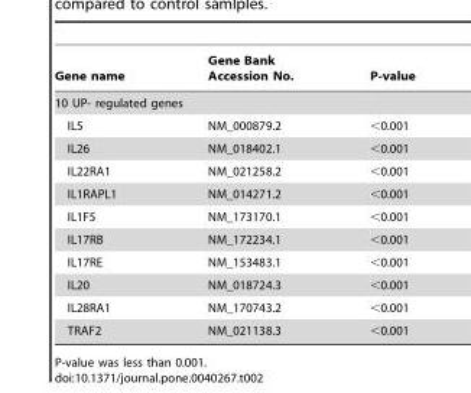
<table><thead><tr><td>Gene name</td><td>Gene Bank Accession No.</td><td>P-value</td></tr></thead><tbody><tr><td colspan="3">10 UP- regulated genes</td></tr><tr><td>IL5</td><td>NM_000879.2</td><td>&lt;0.001</td></tr><tr><td>IL26</td><td>NM_018402.1</td><td>&lt;0.001</td></tr><tr><td>IL22RA1</td><td>NM_021258.2</td><td>&lt;0.001</td></tr><tr><td>IL1RAPL1</td><td>NM_014271.2</td><td>&lt;0.001</td></tr><tr><td>IL1F5</td><td>NM_173170.1</td><td>&lt;0.001</td></tr><tr><td>IL17RB</td><td>NM_172234.1</td><td>&lt;0.001</td></tr><tr><td>IL17RE</td><td>NM_153483.1</td><td>&lt;0.001</td></tr><tr><td>IL20</td><td>NM_018724.3</td><td>&lt;0.001</td></tr><tr><td>IL28RA1</td><td>NM_170743.2</td><td>&lt;0.001</td></tr><tr><td>TRAF2</td><td>NM_021138.3</td><td>&lt;0.001</td></tr></tbody></table>